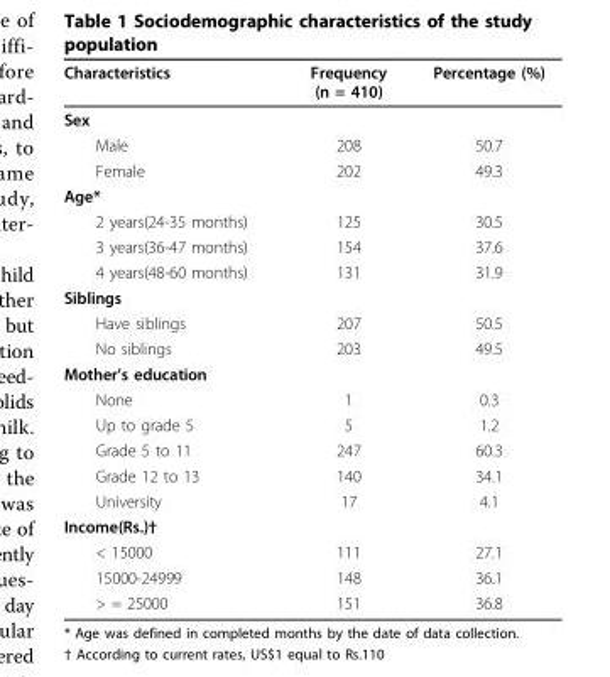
<table><thead><tr><td>Characteristics</td><td>Frequency (n = 410)</td><td>Percentage (%)</td></tr></thead><tbody><tr><td colspan="3">Sex</td></tr><tr><td>Male</td><td>208</td><td>50.7</td></tr><tr><td>Female</td><td>202</td><td>49.3</td></tr><tr><td colspan="3">Age*</td></tr><tr><td>2 years(24-35 months)</td><td>125</td><td>30.5</td></tr><tr><td>3 years(36-47 months)</td><td>154</td><td>37.6</td></tr><tr><td>4 years(48-60 months)</td><td>131</td><td>31.9</td></tr><tr><td colspan="3">Siblings</td></tr><tr><td>Have siblings</td><td>207</td><td>50.5</td></tr><tr><td>No siblings</td><td>203</td><td>49.5</td></tr><tr><td colspan="3">Mother’s education</td></tr><tr><td>None</td><td>1</td><td>0.3</td></tr><tr><td>Up to grade 5</td><td>5</td><td>1.2</td></tr><tr><td>Grade 5 to 11</td><td>247</td><td>60.3</td></tr><tr><td>Grade 12 to 13</td><td>140</td><td>34.1</td></tr><tr><td>University</td><td>17</td><td>4.1</td></tr><tr><td colspan="3">Income(Rs.)†</td></tr><tr><td>&lt; 15000</td><td>111</td><td>27.1</td></tr><tr><td>15000-24999</td><td>148</td><td>36.1</td></tr><tr><td>&gt; = 25000</td><td>151</td><td>36.8</td></tr></tbody></table>